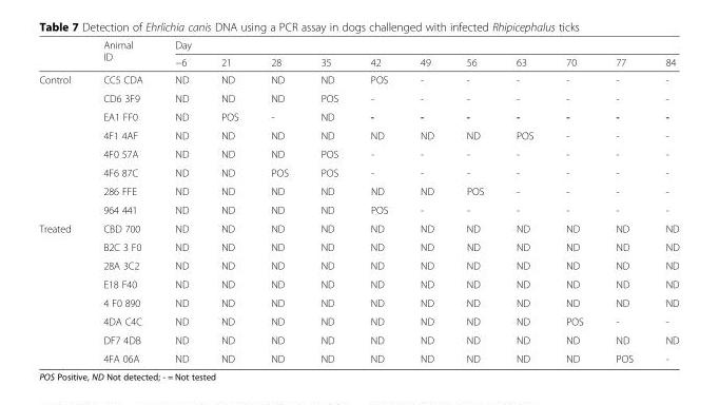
<table><thead><tr><td rowspan="2"></td><td rowspan="2">Animal ID</td><td colspan="11">Day</td></tr><tr><td>−6</td><td>21</td><td>28</td><td>35</td><td>42</td><td>49</td><td>56</td><td>63</td><td>70</td><td>77</td><td>84</td></tr></thead><tbody><tr><td rowspan="8">Control</td><td>CC5 CDA</td><td>ND</td><td>ND</td><td>ND</td><td>ND</td><td>POS</td><td>-</td><td>-</td><td>-</td><td>-</td><td>-</td><td>-</td></tr><tr><td>CD6 3F9</td><td>ND</td><td>ND</td><td>ND</td><td>POS</td><td>-</td><td>-</td><td>-</td><td>-</td><td>-</td><td>-</td><td>-</td></tr><tr><td>EA1 FF0</td><td>ND</td><td>POS</td><td>-</td><td>ND</td><td>-</td><td>-</td><td>-</td><td>-</td><td>-</td><td>-</td><td>-</td></tr><tr><td>4F1 4AF</td><td>ND</td><td>ND</td><td>ND</td><td>ND</td><td>ND</td><td>ND</td><td>ND</td><td>POS</td><td>-</td><td>-</td><td>-</td></tr><tr><td>4F0 57A</td><td>ND</td><td>ND</td><td>ND</td><td>POS</td><td>-</td><td>-</td><td>-</td><td>-</td><td>-</td><td>-</td><td>-</td></tr><tr><td>4F6 87C</td><td>ND</td><td>ND</td><td>POS</td><td>POS</td><td>-</td><td>-</td><td>-</td><td>-</td><td>-</td><td>-</td><td>-</td></tr><tr><td>286 FFE</td><td>ND</td><td>ND</td><td>ND</td><td>ND</td><td>ND</td><td>ND</td><td>POS</td><td>-</td><td>-</td><td>-</td><td>-</td></tr><tr><td>964 441</td><td>ND</td><td>ND</td><td>ND</td><td>ND</td><td>POS</td><td>-</td><td>-</td><td>-</td><td>-</td><td>-</td><td>-</td></tr><tr><td rowspan="8">Treated</td><td>CBD 700</td><td>ND</td><td>ND</td><td>ND</td><td>ND</td><td>ND</td><td>ND</td><td>ND</td><td>ND</td><td>ND</td><td>ND</td><td>ND</td></tr><tr><td>B2C 3 F0</td><td>ND</td><td>ND</td><td>ND</td><td>ND</td><td>ND</td><td>ND</td><td>ND</td><td>ND</td><td>ND</td><td>ND</td><td>ND</td></tr><tr><td>28A 3C2</td><td>ND</td><td>ND</td><td>ND</td><td>ND</td><td>ND</td><td>ND</td><td>ND</td><td>ND</td><td>ND</td><td>ND</td><td>ND</td></tr><tr><td>E18 F40</td><td>ND</td><td>ND</td><td>ND</td><td>ND</td><td>ND</td><td>ND</td><td>ND</td><td>ND</td><td>ND</td><td>ND</td><td>ND</td></tr><tr><td>4 F0 890</td><td>ND</td><td>ND</td><td>ND</td><td>ND</td><td>ND</td><td>ND</td><td>ND</td><td>ND</td><td>ND</td><td>ND</td><td>ND</td></tr><tr><td>4DA C4C</td><td>ND</td><td>ND</td><td>ND</td><td>ND</td><td>ND</td><td>ND</td><td>ND</td><td>ND</td><td>POS</td><td>-</td><td>-</td></tr><tr><td>DF7 4DB</td><td>ND</td><td>ND</td><td>ND</td><td>ND</td><td>ND</td><td>ND</td><td>ND</td><td>ND</td><td>ND</td><td>ND</td><td>ND</td></tr><tr><td>4FA 06A</td><td>ND</td><td>ND</td><td>ND</td><td>ND</td><td>ND</td><td>ND</td><td>ND</td><td>ND</td><td>ND</td><td>POS</td><td>-</td></tr></tbody></table>